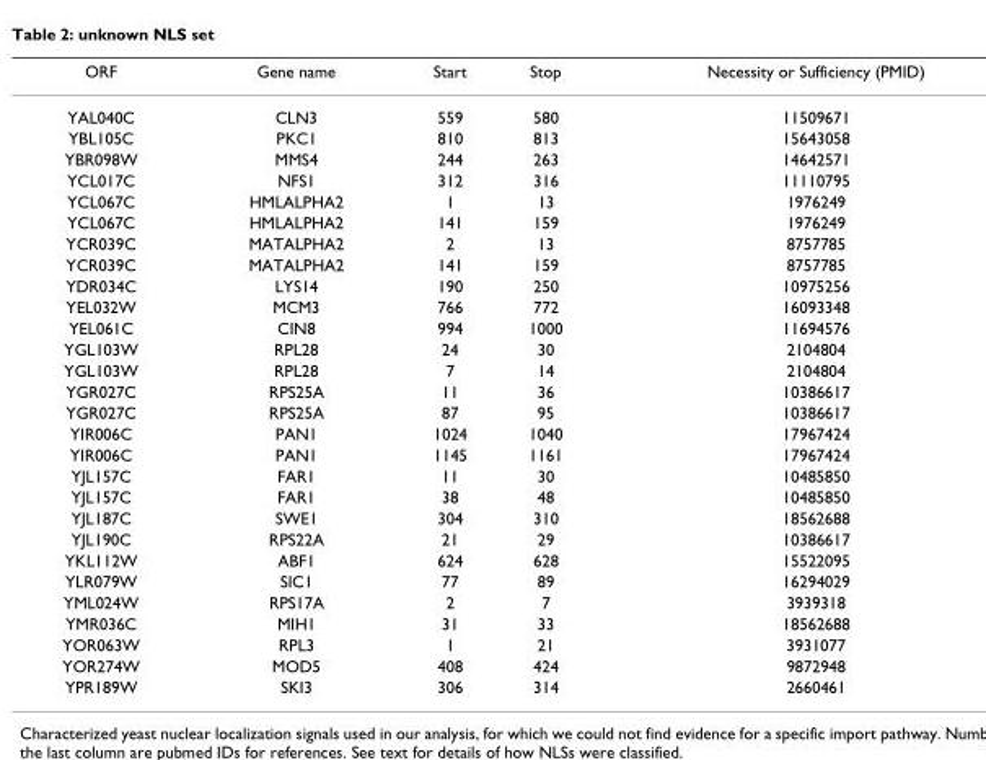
<table><thead><tr><td>ORF</td><td>Gene name</td><td>Start</td><td>Stop</td><td>Necessity or Sufficiency (PMID)</td></tr></thead><tbody><tr><td>YAL040C</td><td>CLN3</td><td>559</td><td>580</td><td>11509671</td></tr><tr><td>YBL105C</td><td>PKC1</td><td>810</td><td>813</td><td>15643058</td></tr><tr><td>YBR098W</td><td>MMS4</td><td>244</td><td>263</td><td>14642571</td></tr><tr><td>YCL017C</td><td>NFS1</td><td>312</td><td>316</td><td>11110795</td></tr><tr><td>YCL067C</td><td>HMLALPHA2</td><td>1</td><td>13</td><td>1976249</td></tr><tr><td>YCL067C</td><td>HMLALPHA2</td><td>141</td><td>159</td><td>1976249</td></tr><tr><td>YCR039C</td><td>MATALPHA2</td><td>2</td><td>13</td><td>8757785</td></tr><tr><td>YCR039C</td><td>MATALPHA2</td><td>141</td><td>159</td><td>8757785</td></tr><tr><td>YDR034C</td><td>LYS14</td><td>190</td><td>250</td><td>10975256</td></tr><tr><td>YEL032W</td><td>MCM3</td><td>766</td><td>772</td><td>16093348</td></tr><tr><td>YEL061C</td><td>CIN8</td><td>994</td><td>1000</td><td>11694576</td></tr><tr><td>YGL103W</td><td>RPL28</td><td>24</td><td>30</td><td>2104804</td></tr><tr><td>YGL103W</td><td>RPL28</td><td>7</td><td>14</td><td>2104804</td></tr><tr><td>YGR027C</td><td>RPS25A</td><td>11</td><td>36</td><td>10386617</td></tr><tr><td>YGR027C</td><td>RPS25A</td><td>87</td><td>95</td><td>10386617</td></tr><tr><td>YIR006C</td><td>PAN1</td><td>1024</td><td>1040</td><td>17967424</td></tr><tr><td>YIR006C</td><td>PAN1</td><td>1145</td><td>1161</td><td>17967424</td></tr><tr><td>YJL157C</td><td>FAR1</td><td>11</td><td>30</td><td>10485850</td></tr><tr><td>YJL157C</td><td>FAR1</td><td>38</td><td>48</td><td>10485850</td></tr><tr><td>YJL187C</td><td>SWE1</td><td>304</td><td>310</td><td>18562688</td></tr><tr><td>YJL190C</td><td>RPS22A</td><td>21</td><td>29</td><td>10386617</td></tr><tr><td>YKL112W</td><td>ABF1</td><td>624</td><td>628</td><td>15522095</td></tr><tr><td>YLR079W</td><td>SIC1</td><td>77</td><td>89</td><td>16294029</td></tr><tr><td>YML024W</td><td>RPS17A</td><td>2</td><td>7</td><td>3939318</td></tr><tr><td>YMR036C</td><td>MIH1</td><td>31</td><td>33</td><td>18562688</td></tr><tr><td>YOR063W</td><td>RPL3</td><td>1</td><td>21</td><td>3931077</td></tr><tr><td>YOR274W</td><td>MOD5</td><td>408</td><td>424</td><td>9872948</td></tr><tr><td>YPR189W</td><td>SKI3</td><td>306</td><td>314</td><td>2660461</td></tr></tbody></table>